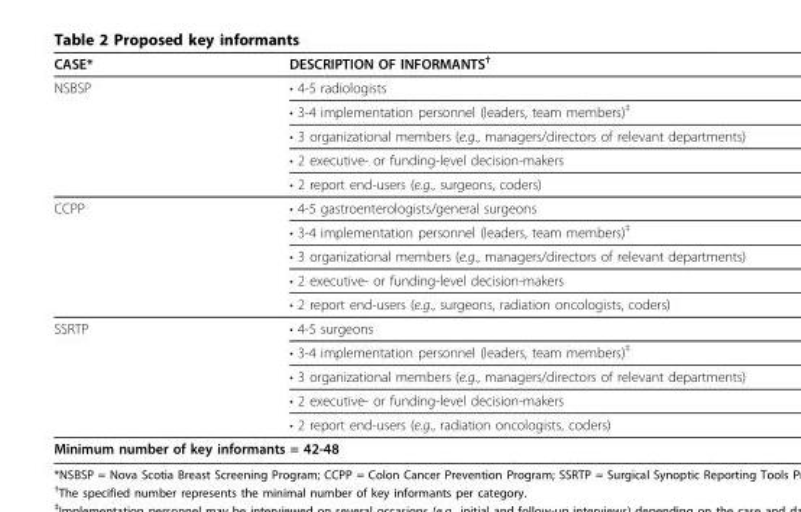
<table><thead><tr><td>CASE*</td><td>DESCRIPTION OF INFORMANTS<sup>†</sup></td></tr></thead><tbody><tr><td rowspan="5">NSBSP</td><td>• 4-5 radiologists</td></tr><tr><td>• 3-4 implementation personnel (leaders, team members)<sup>‡</sup></td></tr><tr><td>• 3 organizational members (e.g., managers/directors of relevant departments)</td></tr><tr><td>• 2 executive- or funding-level decision-makers</td></tr><tr><td>• 2 report end-users (e.g., surgeons, coders)</td></tr><tr><td rowspan="5">CCPP</td><td>• 4-5 gastroenterologists/general surgeons</td></tr><tr><td>• 3-4 implementation personnel (leaders, team members)<sup>‡</sup></td></tr><tr><td>• 3 organizational members (e.g., managers/directors of relevant departments)</td></tr><tr><td>• 2 executive- or funding-level decision-makers</td></tr><tr><td>• 2 report end-users (e.g., surgeons, radiation oncologists, coders)</td></tr><tr><td rowspan="5">SSRTP</td><td>• 4-5 surgeons</td></tr><tr><td>• 3-4 implementation personnel (leaders, team members)<sup>‡</sup></td></tr><tr><td>• 3 organizational members (e.g., managers/directors of relevant departments)</td></tr><tr><td>• 2 executive- or funding-level decision-makers</td></tr><tr><td>• 2 report end-users (e.g., radiation oncologists, coders)</td></tr><tr><td colspan="2">Minimum number of key informants = 42-48</td></tr></tbody></table>